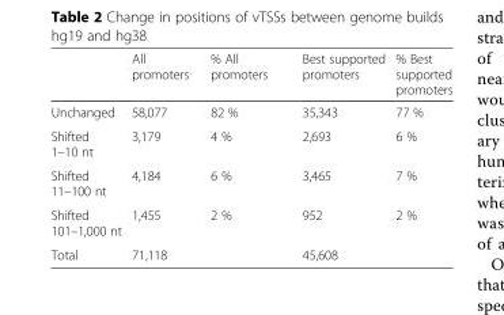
<table><thead><tr><td></td><td>All promoters</td><td>% All promoters</td><td>Best supported promoters</td><td>% Best supported promoters</td></tr></thead><tbody><tr><td>Unchanged</td><td>58,077</td><td>82 %</td><td>35,343</td><td>77 %</td></tr><tr><td>Shifted 1–10 nt</td><td>3,179</td><td>4 %</td><td>2,693</td><td>6 %</td></tr><tr><td>Shifted 11–100 nt</td><td>4,184</td><td>6 %</td><td>3,465</td><td>7 %</td></tr><tr><td>Shifted 101–1,000 nt</td><td>1,455</td><td>2 %</td><td>952</td><td>2 %</td></tr><tr><td>Total</td><td>71,118</td><td></td><td>45,608</td><td></td></tr></tbody></table>